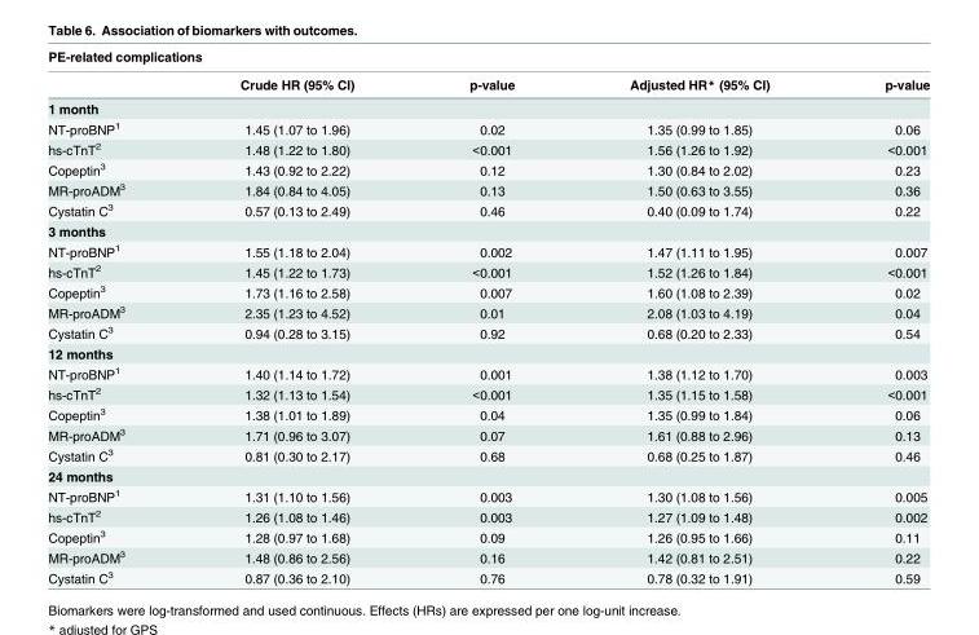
<table><thead><tr><td colspan="5">PE-related complications</td></tr><tr><td></td><td>Crude HR (95% CI)</td><td>p-value</td><td>Adjusted HR* (95% CI)</td><td>p-value</td></tr></thead><tbody><tr><td colspan="5">1 month</td></tr><tr><td>NT-proBNP<sup>1</sup></td><td>1.45 (1.07 to 1.96)</td><td>0.02</td><td>1.35 (0.99 to 1.85)</td><td>0.06</td></tr><tr><td>hs-cTnT<sup>2</sup></td><td>1.48 (1.22 to 1.80)</td><td>&lt;0.001</td><td>1.56 (1.26 to 1.92)</td><td>&lt;0.001</td></tr><tr><td>Copeptin<sup>3</sup></td><td>1.43 (0.92 to 2.22)</td><td>0.12</td><td>1.30 (0.84 to 2.02)</td><td>0.23</td></tr><tr><td>MR-proADM<sup>3</sup></td><td>1.84 (0.84 to 4.05)</td><td>0.13</td><td>1.50 (0.63 to 3.55)</td><td>0.36</td></tr><tr><td>Cystatin C<sup>3</sup></td><td>0.57 (0.13 to 2.49)</td><td>0.46</td><td>0.40 (0.09 to 1.74)</td><td>0.22</td></tr><tr><td colspan="5">3 months</td></tr><tr><td>NT-proBNP<sup>1</sup></td><td>1.55 (1.18 to 2.04)</td><td>0.002</td><td>1.47 (1.11 to 1.95)</td><td>0.007</td></tr><tr><td>hs-cTnT<sup>2</sup></td><td>1.45 (1.22 to 1.73)</td><td>&lt;0.001</td><td>1.52 (1.26 to 1.84)</td><td>&lt;0.001</td></tr><tr><td>Copeptin<sup>3</sup></td><td>1.73 (1.16 to 2.58)</td><td>0.007</td><td>1.60 (1.08 to 2.39)</td><td>0.02</td></tr><tr><td>MR-proADM<sup>3</sup></td><td>2.35 (1.23 to 4.52)</td><td>0.01</td><td>2.08 (1.03 to 4.19)</td><td>0.04</td></tr><tr><td>Cystatin C<sup>3</sup></td><td>0.94 (0.28 to 3.15)</td><td>0.92</td><td>0.68 (0.20 to 2.33)</td><td>0.54</td></tr><tr><td colspan="5">12 months</td></tr><tr><td>NT-proBNP<sup>1</sup></td><td>1.40 (1.14 to 1.72)</td><td>0.001</td><td>1.38 (1.12 to 1.70)</td><td>0.003</td></tr><tr><td>hs-cTnT<sup>2</sup></td><td>1.32 (1.13 to 1.54)</td><td>&lt;0.001</td><td>1.35 (1.15 to 1.58)</td><td>&lt;0.001</td></tr><tr><td>Copeptin<sup>3</sup></td><td>1.38 (1.01 to 1.89)</td><td>0.04</td><td>1.35 (0.99 to 1.84)</td><td>0.06</td></tr><tr><td>MR-proADM<sup>3</sup></td><td>1.71 (0.96 to 3.07)</td><td>0.07</td><td>1.61 (0.88 to 2.96)</td><td>0.13</td></tr><tr><td>Cystatin C<sup>3</sup></td><td>0.81 (0.30 to 2.17)</td><td>0.68</td><td>0.68 (0.25 to 1.87)</td><td>0.46</td></tr><tr><td colspan="5">24 months</td></tr><tr><td>NT-proBNP<sup>1</sup></td><td>1.31 (1.10 to 1.56)</td><td>0.003</td><td>1.30 (1.08 to 1.56)</td><td>0.005</td></tr><tr><td>hs-cTnT<sup>2</sup></td><td>1.26 (1.08 to 1.46)</td><td>0.003</td><td>1.27 (1.09 to 1.48)</td><td>0.002</td></tr><tr><td>Copeptin<sup>3</sup></td><td>1.28 (0.97 to 1.68)</td><td>0.09</td><td>1.26 (0.95 to 1.66)</td><td>0.11</td></tr><tr><td>MR-proADM<sup>3</sup></td><td>1.48 (0.86 to 2.56)</td><td>0.16</td><td>1.42 (0.81 to 2.51)</td><td>0.22</td></tr><tr><td>Cystatin C<sup>3</sup></td><td>0.87 (0.36 to 2.10)</td><td>0.76</td><td>0.78 (0.32 to 1.91)</td><td>0.59</td></tr></tbody></table>